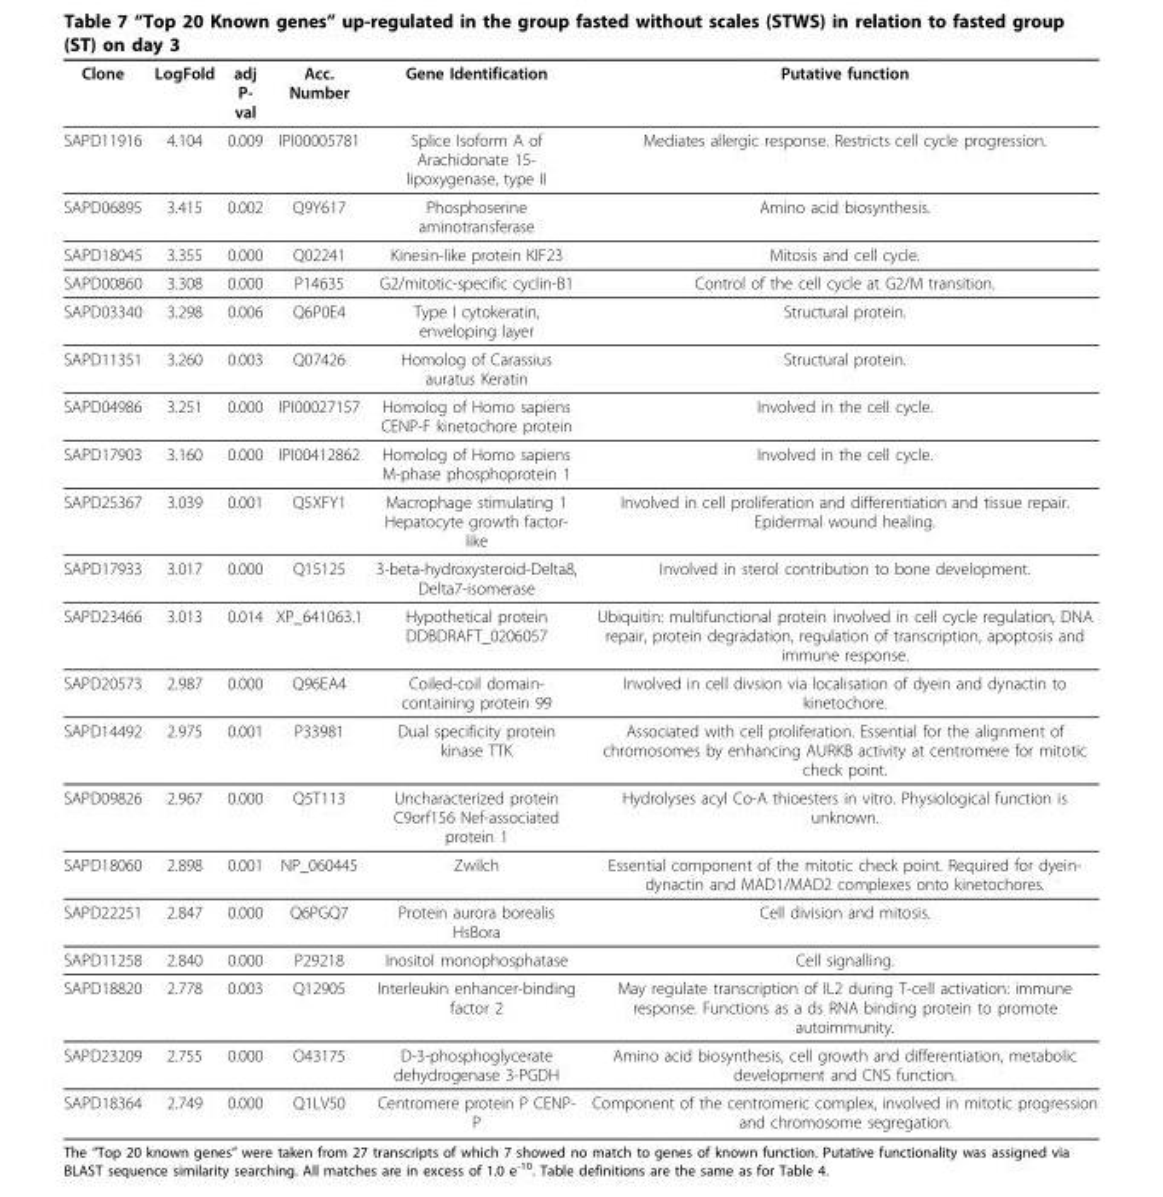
<table><thead><tr><td>Clone</td><td>LogFold</td><td>adj P- val</td><td>Acc. Number</td><td>Gene Identification</td><td>Putative function</td></tr></thead><tbody><tr><td>SAPD11916</td><td>4.104</td><td>0.009</td><td>IPI00005781</td><td>Splice Isoform A of Arachidonate 15- lipoxygenase, type II</td><td>Mediates allergic response. Restricts cell cycle progression.</td></tr><tr><td>SAPD06895</td><td>3.415</td><td>0.002</td><td>Q9Y617</td><td>Phosphoserine aminotransferase</td><td>Amino acid biosynthesis.</td></tr><tr><td>SAPD18045</td><td>3.355</td><td>0.000</td><td>Q02241</td><td>Kinesin-like protein KIF23</td><td>Mitosis and cell cycle.</td></tr><tr><td>SAPD00860</td><td>3.308</td><td>0.000</td><td>P14635</td><td>G2/mitotic-specific cyclin-B1</td><td>Control of the cell cycle at G2/M transition.</td></tr><tr><td>SAPD03340</td><td>3.298</td><td>0.006</td><td>Q6P0E4</td><td>Type I cytokeratin, enveloping layer</td><td>Structural protein.</td></tr><tr><td>SAPD11351</td><td>3.260</td><td>0.003</td><td>Q07426</td><td>Homolog of Carassius auratus Keratin</td><td>Structural protein.</td></tr><tr><td>SAPD04986</td><td>3.251</td><td>0.000</td><td>IPI00027157</td><td>Homolog of Homo sapiens CENP-F kinetochore protein</td><td>Involved in the cell cycle.</td></tr><tr><td>SAPD17903</td><td>3.160</td><td>0.000</td><td>IPI00412862</td><td>Homolog of Homo sapiens M-phase phosphoprotein 1</td><td>Involved in the cell cycle.</td></tr><tr><td>SAPD25367</td><td>3.039</td><td>0.001</td><td>Q5XFY1</td><td>Macrophage stimulating 1 Hepatocyte growth factor- like</td><td>Involved in cell proliferation and differentiation and tissue repair. Epidermal wound healing.</td></tr><tr><td>SAPD17933</td><td>3.017</td><td>0.000</td><td>Q15125</td><td>3-beta-hydroxysteroid-Delta8, Delta7-isomerase</td><td>Involved in sterol contribution to bone development.</td></tr><tr><td>SAPD23466</td><td>3.013</td><td>0.014</td><td>XP_641063.1</td><td>Hypothetical protein DDBDRAFT_0206057</td><td>Ubiquitin: multifunctional protein involved in cell cycle regulation, DNA repair, protein degradation, regulation of transcription, apoptosis and immune response.</td></tr><tr><td>SAPD20573</td><td>2.987</td><td>0.000</td><td>Q96EA4</td><td>Coiled-coil domain- containing protein 99</td><td>Involved in cell divsion via localisation of dyein and dynactin to kinetochore.</td></tr><tr><td>SAPD14492</td><td>2.975</td><td>0.001</td><td>P33981</td><td>Dual specificity protein kinase TTK</td><td>Associated with cell proliferation. Essential for the alignment of chromosomes by enhancing AURKB activity at centromere for mitotic check point.</td></tr><tr><td>SAPD09826</td><td>2.967</td><td>0.000</td><td>Q5T113</td><td>Uncharacterized protein C9orf156 Nef-associated protein 1</td><td>Hydrolyses acyl Co-A thioesters in vitro. Physiological function is unknown.</td></tr><tr><td>SAPD18060</td><td>2.898</td><td>0.001</td><td>NP_060445</td><td>Zwilch</td><td>Essential component of the mitotic check point. Required for dyein- dynactin and MAD1/MAD2 complexes onto kinetochores.</td></tr><tr><td>SAPD22251</td><td>2.847</td><td>0.000</td><td>Q6PGQ7</td><td>Protein aurora borealis HsBora</td><td>Cell division and mitosis.</td></tr><tr><td>SAPD11258</td><td>2.840</td><td>0.000</td><td>P29218</td><td>Inositol monophosphatase</td><td>Cell signalling.</td></tr><tr><td>SAPD18820</td><td>2.778</td><td>0.003</td><td>Q12905</td><td>Interleukin enhancer-binding factor 2</td><td>May regulate transcription of IL2 during T-cell activation: immune response. Functions as a ds RNA binding protein to promote autoimmunity.</td></tr><tr><td>SAPD23209</td><td>2.755</td><td>0.000</td><td>O43175</td><td>D-3-phosphoglycerate dehydrogenase 3-PGDH</td><td>Amino acid biosynthesis, cell growth and differentiation, metabolic development and CNS function.</td></tr><tr><td>SAPD18364</td><td>2.749</td><td>0.000</td><td>Q1LV50</td><td>Centromere protein P CENP- P</td><td>Component of the centromeric complex, involved in mitotic progression and chromosome segregation.</td></tr></tbody></table>